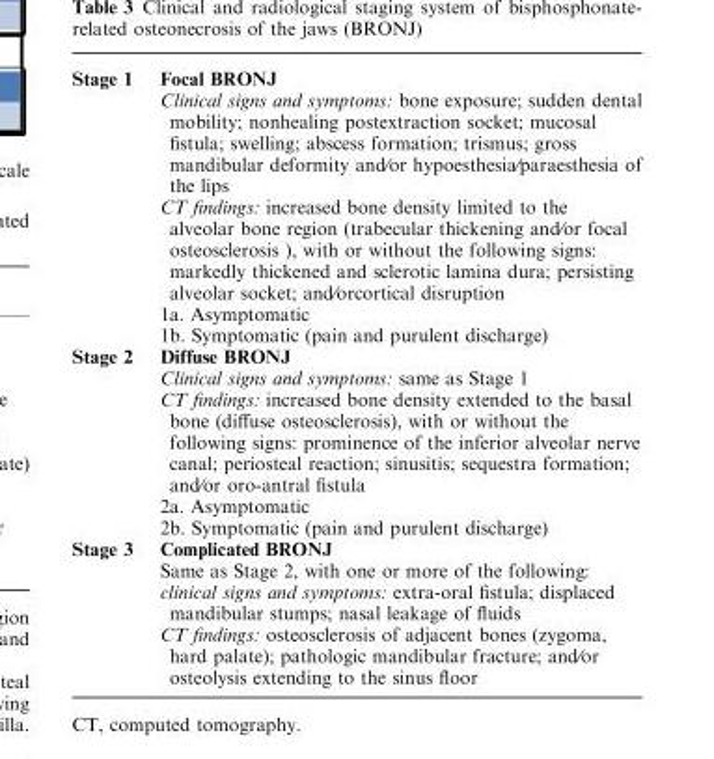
<table><tbody><tr><td rowspan="5">Stage 1</td><td>Focal BRONJ</td></tr><tr><td>Clinical signs and symptoms: bone exposure; sudden dental mobility; nonhealing postextraction socket; mucosal fistula; swelling; abscess formation; trismus; gross mandibular deformity and⁄or hypoesthesia⁄paraesthesia of the lips</td></tr><tr><td>CT findings: increased bone density limited to the alveolar bone region (trabecular thickening and⁄or focal osteosclerosis ), with or without the following signs: markedly thickened and sclerotic lamina dura; persisting alveolar socket; and⁄orcortical disruption</td></tr><tr><td>1a. Asymptomatic</td></tr><tr><td>1b. Symptomatic (pain and purulent discharge)</td></tr><tr><td rowspan="5">Stage 2</td><td>Diffuse BRONJ</td></tr><tr><td>Clinical signs and symptoms: same as Stage 1</td></tr><tr><td>CT findings: increased bone density extended to the basal bone (diffuse osteosclerosis), with or without the following signs: prominence of the inferior alveolar nerve canal; periosteal reaction; sinusitis; sequestra formation; and⁄or oro-antral fistula</td></tr><tr><td>2a. Asymptomatic</td></tr><tr><td>2b. Symptomatic (pain and purulent discharge)</td></tr><tr><td rowspan="4">Stage 3</td><td>Complicated BRONJ</td></tr><tr><td>Same as Stage 2, with one or more of the following:</td></tr><tr><td>clinical signs and symptoms: extra-oral fistula; displaced mandibular stumps; nasal leakage of fluids</td></tr><tr><td>CT findings: osteosclerosis of adjacent bones (zygoma, hard palate); pathologic mandibular fracture; and⁄or osteolysis extending to the sinus floor</td></tr></tbody></table>